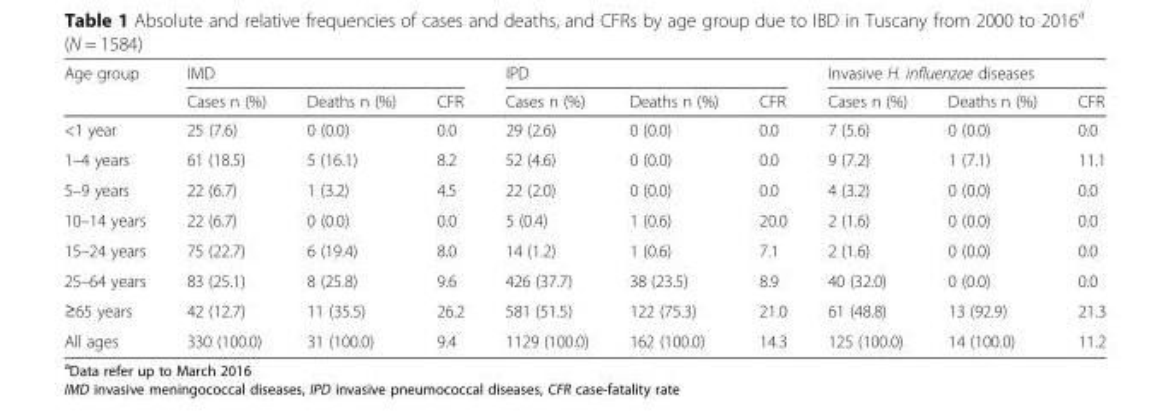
<table><thead><tr><td rowspan="2">Age group</td><td colspan="3">IMD</td><td colspan="3">IPD</td><td colspan="3">Invasive H. influenzae diseases</td></tr><tr><td>Cases n (%)</td><td>Deaths n (%)</td><td>CFR</td><td>Cases n (%)</td><td>Deaths n (%)</td><td>CFR</td><td>Cases n (%)</td><td>Deaths n (%)</td><td>CFR</td></tr></thead><tbody><tr><td>&lt;1 year</td><td>25 (7.6)</td><td>0 (0.0)</td><td>0.0</td><td>29 (2.6)</td><td>0 (0.0)</td><td>0.0</td><td>7 (5.6)</td><td>0 (0.0)</td><td>0.0</td></tr><tr><td>1–4 years</td><td>61 (18.5)</td><td>5 (16.1)</td><td>8.2</td><td>52 (4.6)</td><td>0 (0.0)</td><td>0.0</td><td>9 (7.2)</td><td>1 (7.1)</td><td>11.1</td></tr><tr><td>5–9 years</td><td>22 (6.7)</td><td>1 (3.2)</td><td>4.5</td><td>22 (2.0)</td><td>0 (0.0)</td><td>0.0</td><td>4 (3.2)</td><td>0 (0.0)</td><td>0.0</td></tr><tr><td>10–14 years</td><td>22 (6.7)</td><td>0 (0.0)</td><td>0.0</td><td>5 (0.4)</td><td>1 (0.6)</td><td>20.0</td><td>2 (1.6)</td><td>0 (0.0)</td><td>0.0</td></tr><tr><td>15–24 years</td><td>75 (22.7)</td><td>6 (19.4)</td><td>8.0</td><td>14 (1.2)</td><td>1 (0.6)</td><td>7.1</td><td>2 (1.6)</td><td>0 (0.0)</td><td>0.0</td></tr><tr><td>25–64 years</td><td>83 (25.1)</td><td>8 (25.8)</td><td>9.6</td><td>426 (37.7)</td><td>38 (23.5)</td><td>8.9</td><td>40 (32.0)</td><td>0 (0.0)</td><td>0.0</td></tr><tr><td>≥65 years</td><td>42 (12.7)</td><td>11 (35.5)</td><td>26.2</td><td>581 (51.5)</td><td>122 (75.3)</td><td>21.0</td><td>61 (48.8)</td><td>13 (92.9)</td><td>21.3</td></tr><tr><td>All ages</td><td>330 (100.0)</td><td>31 (100.0)</td><td>9.4</td><td>1129 (100.0)</td><td>162 (100.0)</td><td>14.3</td><td>125 (100.0)</td><td>14 (100.0)</td><td>11.2</td></tr></tbody></table>